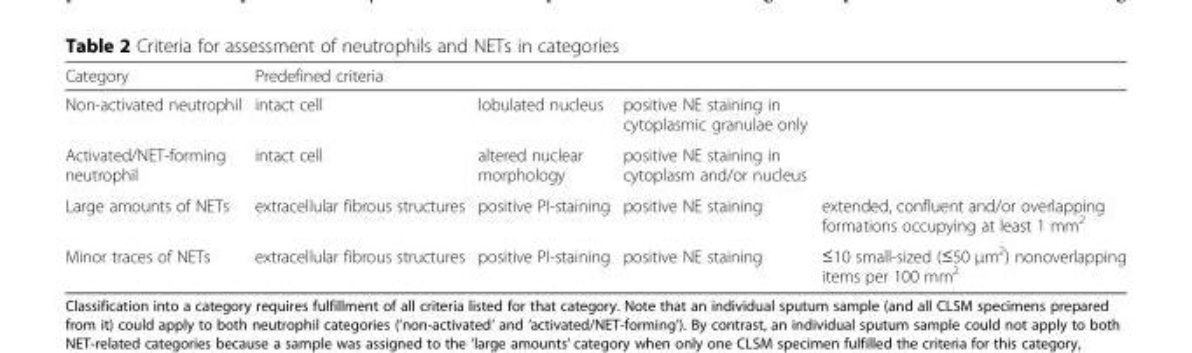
<table><thead><tr><td rowspan="2">Category Non-activated neutrophil</td><td colspan="4">Predefined criteria</td></tr><tr><td>intact cell</td><td>lobulated nucleus</td><td>positive NE staining in cytoplasmic granulae only</td><td></td></tr></thead><tbody><tr><td>Activated/NET-forming neutrophil</td><td>intact cell</td><td>altered nuclear morphology</td><td>positive NE staining in cytoplasm and/or nucleus</td><td></td></tr><tr><td>Large amounts of NETs</td><td>extracellular fibrous structures</td><td>positive PI-staining</td><td>positive NE staining</td><td>extended, confluent and/or overlapping formations occupying at least 1 mm<sup>2</sup></td></tr><tr><td>Minor traces of NETs</td><td>extracellular fibrous structures</td><td>positive PI-staining</td><td>positive NE staining</td><td>≤10 small-sized (≤50 μm<sup>2</sup>) nonoverlapping items per 100 mm<sup>2</sup></td></tr></tbody></table>